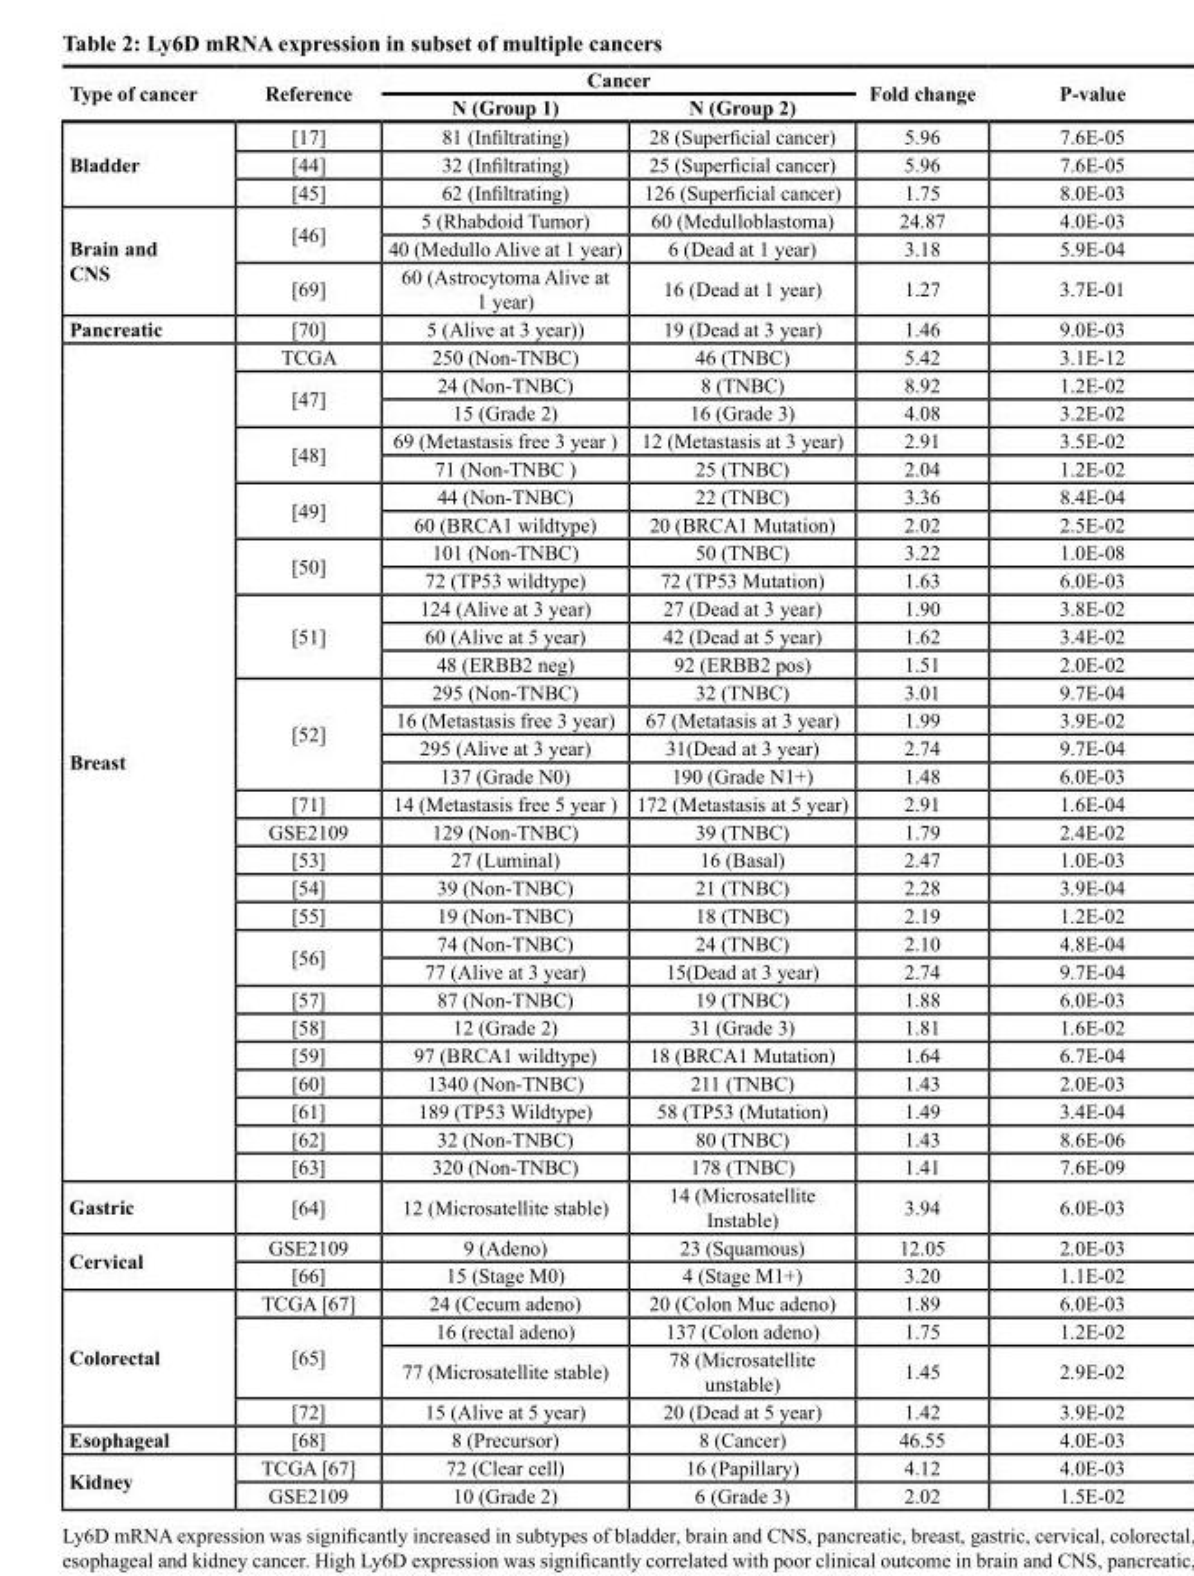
<table><thead><tr><td rowspan="2">Type of cancer</td><td rowspan="2">Reference</td><td colspan="2">Cancer</td><td rowspan="2">Fold change</td><td rowspan="2">P-value</td></tr><tr><td>N (Group 1)</td><td>N (Group 2)</td></tr></thead><tbody><tr><td rowspan="3">Bladder</td><td>[17]</td><td>81 (Infiltrating)</td><td>28 (Superficial cancer)</td><td>5.96</td><td>7.6E-05</td></tr><tr><td>[44]</td><td>32 (Infiltrating)</td><td>25 (Superficial cancer)</td><td>5.96</td><td>7.6E-05</td></tr><tr><td>[45]</td><td>62 (Infiltrating)</td><td>126 (Superficial cancer)</td><td>1.75</td><td>8.0E-03</td></tr><tr><td rowspan="3">Brain and CNS</td><td rowspan="2">[46]</td><td>5 (Rhabdoid Tumor)</td><td>60 (Medulloblastoma)</td><td>24.87</td><td>4.0E-03</td></tr><tr><td>40 (Medullo Alive at 1 year)</td><td>6 (Dead at 1 year)</td><td>3.18</td><td>5.9E-04</td></tr><tr><td>[69]</td><td>60 (Astrocytoma Alive at 1 year)</td><td>16 (Dead at 1 year)</td><td>1.27</td><td>3.7E-01</td></tr><tr><td>Pancreatic</td><td>[70]</td><td>5 (Alive at 3 year))</td><td>19 (Dead at 3 year)</td><td>1.46</td><td>9.0E-03</td></tr><tr><td rowspan="30">Breast</td><td>TCGA</td><td>250 (Non-TNBC)</td><td>46 (TNBC)</td><td>5.42</td><td>3.1E-12</td></tr><tr><td rowspan="2">[47]</td><td>24 (Non-TNBC)</td><td>8 (TNBC)</td><td>8.92</td><td>1.2E-02</td></tr><tr><td>15 (Grade 2)</td><td>16 (Grade 3)</td><td>4.08</td><td>3.2E-02</td></tr><tr><td rowspan="2">[48]</td><td>69 (Metastasis free 3 year )</td><td>12 (Metastasis at 3 year)</td><td>2.91</td><td>3.5E-02</td></tr><tr><td>71 (Non-TNBC )</td><td>25 (TNBC)</td><td>2.04</td><td>1.2E-02</td></tr><tr><td rowspan="2">[49]</td><td>44 (Non-TNBC)</td><td>22 (TNBC)</td><td>3.36</td><td>8.4E-04</td></tr><tr><td>60 (BRCA1 wildtype)</td><td>20 (BRCA1 Mutation)</td><td>2.02</td><td>2.5E-02</td></tr><tr><td rowspan="2">[50]</td><td>101 (Non-TNBC)</td><td>50 (TNBC)</td><td>3.22</td><td>1.0E-08</td></tr><tr><td>72 (TP53 wildtype)</td><td>72 (TP53 Mutation)</td><td>1.63</td><td>6.0E-03</td></tr><tr><td rowspan="3">[51]</td><td>124 (Alive at 3 year)</td><td>27 (Dead at 3 year)</td><td>1.90</td><td>3.8E-02</td></tr><tr><td>60 (Alive at 5 year)</td><td>42 (Dead at 5 year)</td><td>1.62</td><td>3.4E-02</td></tr><tr><td>48 (ERBB2 neg)</td><td>92 (ERBB2 pos)</td><td>1.51</td><td>2.0E-02</td></tr><tr><td rowspan="4">[52]</td><td>295 (Non-TNBC)</td><td>32 (TNBC)</td><td>3.01</td><td>9.7E-04</td></tr><tr><td>16 (Metastasis free 3 year)</td><td>67 (Metatasis at 3 year)</td><td>1.99</td><td>3.9E-02</td></tr><tr><td>295 (Alive at 3 year)</td><td>31(Dead at 3 year)</td><td>2.74</td><td>9.7E-04</td></tr><tr><td>137 (Grade N0)</td><td>190 (Grade N1+)</td><td>1.48</td><td>6.0E-03</td></tr><tr><td>[71]</td><td>14 (Metastasis free 5 year )</td><td>172 (Metastasis at 5 year)</td><td>2.91</td><td>1.6E-04</td></tr><tr><td>GSE2109</td><td>129 (Non-TNBC)</td><td>39 (TNBC)</td><td>1.79</td><td>2.4E-02</td></tr><tr><td>[53]</td><td>27 (Luminal)</td><td>16 (Basal)</td><td>2.47</td><td>1.0E-03</td></tr><tr><td>[54]</td><td>39 (Non-TNBC)</td><td>21 (TNBC)</td><td>2.28</td><td>3.9E-04</td></tr><tr><td>[55]</td><td>19 (Non-TNBC)</td><td>18 (TNBC)</td><td>2.19</td><td>1.2E-02</td></tr><tr><td rowspan="2">[56]</td><td>74 (Non-TNBC)</td><td>24 (TNBC)</td><td>2.10</td><td>4.8E-04</td></tr><tr><td>77 (Alive at 3 year)</td><td>15(Dead at 3 year)</td><td>2.74</td><td>9.7E-04</td></tr><tr><td>[57]</td><td>87 (Non-TNBC)</td><td>19 (TNBC)</td><td>1.88</td><td>6.0E-03</td></tr><tr><td>[58]</td><td>12 (Grade 2)</td><td>31 (Grade 3)</td><td>1.81</td><td>1.6E-02</td></tr><tr><td>[59]</td><td>97 (BRCA1 wildtype)</td><td>18 (BRCA1 Mutation)</td><td>1.64</td><td>6.7E-04</td></tr><tr><td>[60]</td><td>1340 (Non-TNBC)</td><td>211 (TNBC)</td><td>1.43</td><td>2.0E-03</td></tr><tr><td>[61]</td><td>189 (TP53 Wildtype)</td><td>58 (TP53 (Mutation)</td><td>1.49</td><td>3.4E-04</td></tr><tr><td>[62]</td><td>32 (Non-TNBC)</td><td>80 (TNBC)</td><td>1.43</td><td>8.6E-06</td></tr><tr><td>[63]</td><td>320 (Non-TNBC)</td><td>178 (TNBC)</td><td>1.41</td><td>7.6E-09</td></tr><tr><td>Gastric</td><td>[64]</td><td>12 (Microsatellite stable)</td><td>14 (Microsatellite Instable)</td><td>3.94</td><td>6.0E-03</td></tr><tr><td rowspan="2">Cervical</td><td>GSE2109</td><td>9 (Adeno)</td><td>23 (Squamous)</td><td>12.05</td><td>2.0E-03</td></tr><tr><td>[66]</td><td>15 (Stage M0)</td><td>4 (Stage M1+)</td><td>3.20</td><td>1.1E-02</td></tr><tr><td rowspan="4">Colorectal</td><td>TCGA [67]</td><td>24 (Cecum adeno)</td><td>20 (Colon Muc adeno)</td><td>1.89</td><td>6.0E-03</td></tr><tr><td rowspan="2">[65]</td><td>16 (rectal adeno)</td><td>137 (Colon adeno)</td><td>1.75</td><td>1.2E-02</td></tr><tr><td>77 (Microsatellite stable)</td><td>78 (Microsatellite unstable)</td><td>1.45</td><td>2.9E-02</td></tr><tr><td>[72]</td><td>15 (Alive at 5 year)</td><td>20 (Dead at 5 year)</td><td>1.42</td><td>3.9E-02</td></tr><tr><td>Esophageal</td><td>[68]</td><td>8 (Precursor)</td><td>8 (Cancer)</td><td>46.55</td><td>4.0E-03</td></tr><tr><td rowspan="2">Kidney</td><td>TCGA [67]</td><td>72 (Clear cell)</td><td>16 (Papillary)</td><td>4.12</td><td>4.0E-03</td></tr><tr><td>GSE2109</td><td>10 (Grade 2)</td><td>6 (Grade 3)</td><td>2.02</td><td>1.5E-02</td></tr></tbody></table>